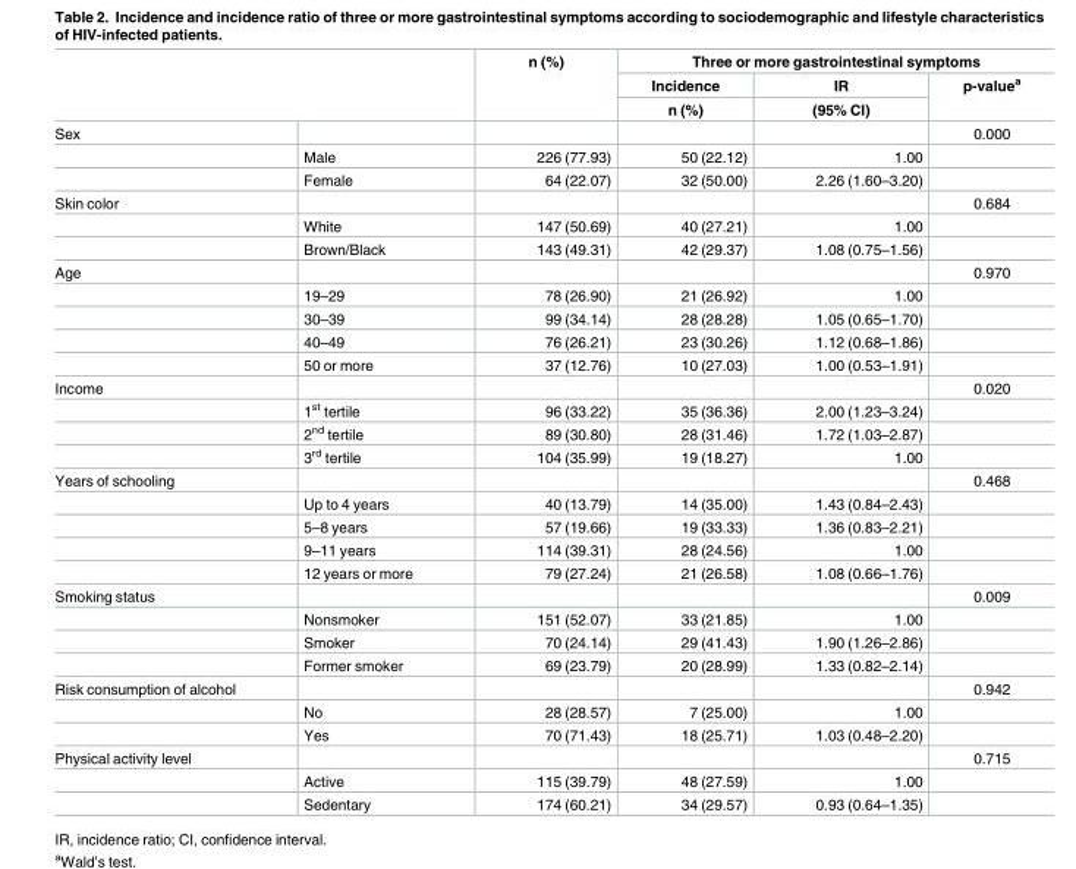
<table><thead><tr><td rowspan="3"></td><td rowspan="3"></td><td rowspan="3">n (%)</td><td colspan="3">Three or more gastrointestinal symptoms</td></tr><tr><td rowspan="2">Incidence n (%)</td><td rowspan="2">IR (95% CI)</td><td rowspan="2">p-value<sup>a</sup></td></tr><tr></tr></thead><tbody><tr><td rowspan="3">Sex</td><td></td><td></td><td></td><td></td><td>0.000</td></tr><tr><td>Male</td><td>226 (77.93)</td><td>50 (22.12)</td><td>1.00</td><td></td></tr><tr><td>Female</td><td>64 (22.07)</td><td>32 (50.00)</td><td>2.26 (1.60–3.20)</td><td></td></tr><tr><td rowspan="3">Skin color</td><td></td><td></td><td></td><td></td><td>0.684</td></tr><tr><td>White</td><td>147 (50.69)</td><td>40 (27.21)</td><td>1.00</td><td></td></tr><tr><td>Brown/Black</td><td>143 (49.31)</td><td>42 (29.37)</td><td>1.08 (0.75–1.56)</td><td></td></tr><tr><td rowspan="5">Age</td><td></td><td></td><td></td><td></td><td>0.970</td></tr><tr><td>19–29</td><td>78 (26.90)</td><td>21 (26.92)</td><td>1.00</td><td></td></tr><tr><td>30–39</td><td>99 (34.14)</td><td>28 (28.28)</td><td>1.05 (0.65–1.70)</td><td></td></tr><tr><td>40–49</td><td>76 (26.21)</td><td>23 (30.26)</td><td>1.12 (0.68–1.86)</td><td></td></tr><tr><td>50 or more</td><td>37 (12.76)</td><td>10 (27.03)</td><td>1.00 (0.53–1.91)</td><td></td></tr><tr><td rowspan="4">Income</td><td></td><td></td><td></td><td></td><td>0.020</td></tr><tr><td>1<sup>st</sup> tertile</td><td>96 (33.22)</td><td>35 (36.36)</td><td>2.00 (1.23–3.24)</td><td></td></tr><tr><td>2<sup>nd</sup> tertile</td><td>89 (30.80)</td><td>28 (31.46)</td><td>1.72 (1.03–2.87)</td><td></td></tr><tr><td>3<sup>rd</sup> tertile</td><td>104 (35.99)</td><td>19 (18.27)</td><td>1.00</td><td></td></tr><tr><td rowspan="5">Years of schooling</td><td></td><td></td><td></td><td></td><td>0.468</td></tr><tr><td>Up to 4 years</td><td>40 (13.79)</td><td>14 (35.00)</td><td>1.43 (0.84–2.43)</td><td></td></tr><tr><td>5–8 years</td><td>57 (19.66)</td><td>19 (33.33)</td><td>1.36 (0.83–2.21)</td><td></td></tr><tr><td>9–11 years</td><td>114 (39.31)</td><td>28 (24.56)</td><td>1.00</td><td></td></tr><tr><td>12 years or more</td><td>79 (27.24)</td><td>21 (26.58)</td><td>1.08 (0.66–1.76)</td><td></td></tr><tr><td rowspan="4">Smoking status</td><td></td><td></td><td></td><td></td><td>0.009</td></tr><tr><td>Nonsmoker</td><td>151 (52.07)</td><td>33 (21.85)</td><td>1.00</td><td></td></tr><tr><td>Smoker</td><td>70 (24.14)</td><td>29 (41.43)</td><td>1.90 (1.26–2.86)</td><td></td></tr><tr><td>Former smoker</td><td>69 (23.79)</td><td>20 (28.99)</td><td>1.33 (0.82–2.14)</td><td></td></tr><tr><td rowspan="3">Risk consumption of alcohol</td><td></td><td></td><td></td><td></td><td>0.942</td></tr><tr><td>No</td><td>28 (28.57)</td><td>7 (25.00)</td><td>1.00</td><td></td></tr><tr><td>Yes</td><td>70 (71.43)</td><td>18 (25.71)</td><td>1.03 (0.48–2.20)</td><td></td></tr><tr><td rowspan="3">Physical activity level</td><td></td><td></td><td></td><td></td><td>0.715</td></tr><tr><td>Active</td><td>115 (39.79)</td><td>48 (27.59)</td><td>1.00</td><td></td></tr><tr><td>Sedentary</td><td>174 (60.21)</td><td>34 (29.57)</td><td>0.93 (0.64–1.35)</td><td></td></tr></tbody></table>